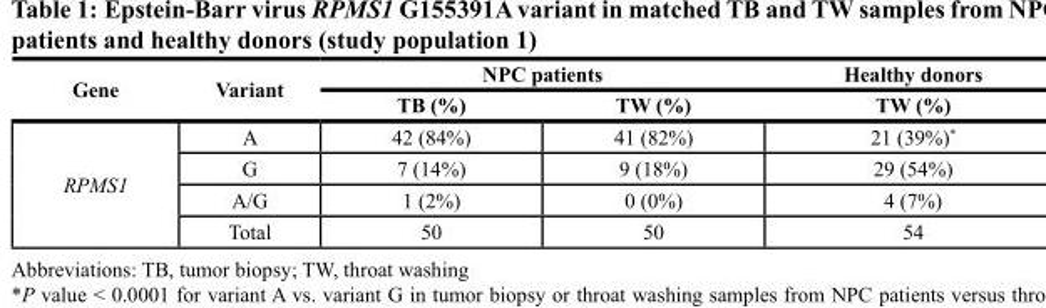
<table><thead><tr><td rowspan="2">Gene</td><td rowspan="2">Variant</td><td colspan="2">NPC patients</td><td rowspan="2">Healthy donors TW (%)</td></tr><tr><td>TB (%)</td><td>TW (%)</td></tr></thead><tbody><tr><td rowspan="4">RPMS1</td><td>A</td><td>42 (84%)</td><td>41 (82%)</td><td>21 (39%)*</td></tr><tr><td>G</td><td>7 (14%)</td><td>9 (18%)</td><td>29 (54%)</td></tr><tr><td>A/G</td><td>1 (2%)</td><td>0 (0%)</td><td>4 (7%)</td></tr><tr><td>Total</td><td>50</td><td>50</td><td>54</td></tr></tbody></table>